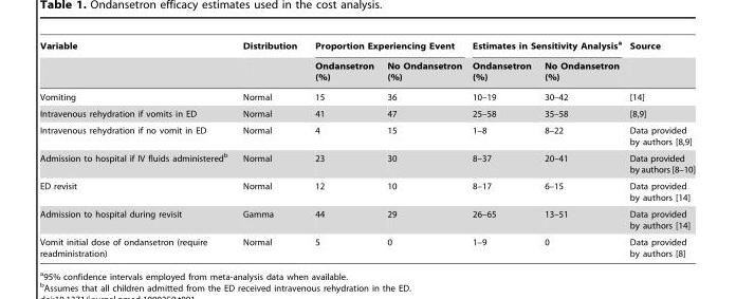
<table><thead><tr><td rowspan="2">Variable</td><td rowspan="2">Distribution</td><td colspan="2">Proportion Experiencing Event</td><td colspan="2">Estimates in Sensitivity Analysis<sup>a</sup></td><td rowspan="2">Source</td></tr><tr><td>Ondansetron (%)</td><td>No Ondansetron (%)</td><td>Ondansetron (%)</td><td>No Ondansetron (%)</td></tr></thead><tbody><tr><td>Vomiting</td><td>Normal</td><td>15</td><td>36</td><td>10–19</td><td>30–42</td><td>[14]</td></tr><tr><td>Intravenous rehydration if vomits in ED</td><td>Normal</td><td>41</td><td>47</td><td>25–58</td><td>35–58</td><td>[8,9]</td></tr><tr><td>Intravenous rehydration if no vomit in ED</td><td>Normal</td><td>4</td><td>15</td><td>1–8</td><td>8–22</td><td>Data provided by authors [8,9]</td></tr><tr><td>Admission to hospital if IV fluids administered<sup>b</sup></td><td>Normal</td><td>23</td><td>30</td><td>8–37</td><td>20–41</td><td>Data provided by authors [8–10]</td></tr><tr><td>ED revisit</td><td>Normal</td><td>12</td><td>10</td><td>8–17</td><td>6–15</td><td>Data provided by authors [14]</td></tr><tr><td>Admission to hospital during revisit</td><td>Gamma</td><td>44</td><td>29</td><td>26–65</td><td>13–51</td><td>Data provided by authors [14]</td></tr><tr><td>Vomit initial dose of ondansetron (require readministration)</td><td>Normal</td><td>5</td><td>0</td><td>1–9</td><td>0</td><td>Data provided by authors [8]</td></tr></tbody></table>